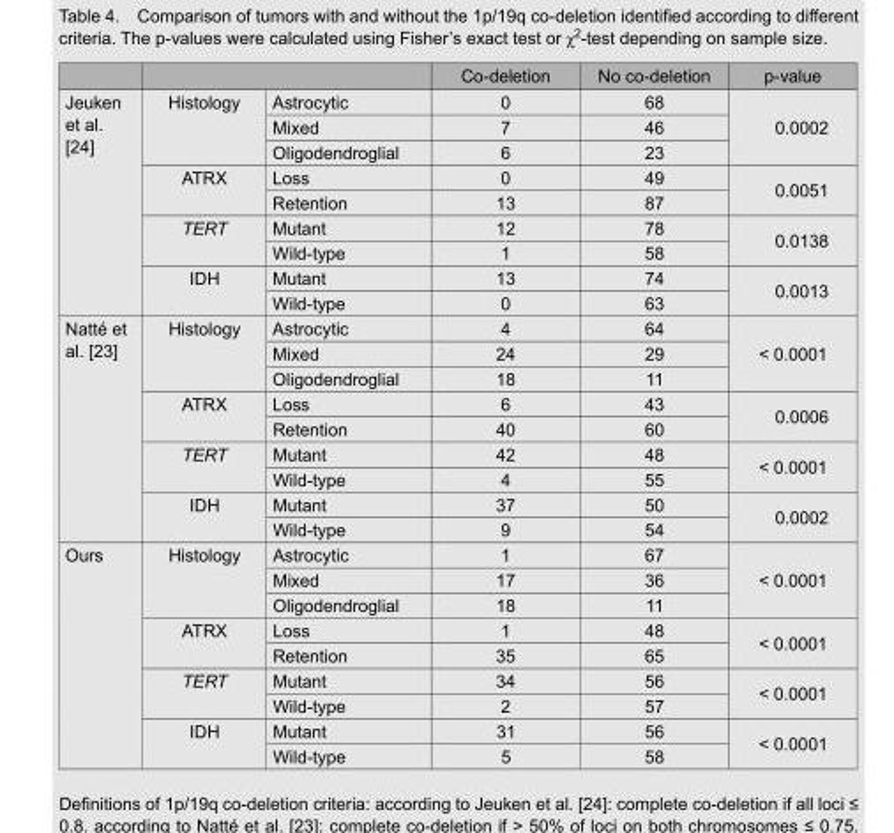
<table><thead><tr><td></td><td></td><td></td><td>Co-deletion</td><td>No co-deletion</td><td>p-value</td></tr></thead><tbody><tr><td rowspan="9">Jeuken et al. [24]</td><td rowspan="3">Histology</td><td>Astrocytic</td><td>0</td><td>68</td><td rowspan="3">0.0002</td></tr><tr><td>Mixed</td><td>7</td><td>46</td></tr><tr><td>Oligodendroglial</td><td>6</td><td>23</td></tr><tr><td rowspan="2">ATRX</td><td>Loss</td><td>0</td><td>49</td><td rowspan="2">0.0051</td></tr><tr><td>Retention</td><td>13</td><td>87</td></tr><tr><td rowspan="2">TERT</td><td>Mutant</td><td>12</td><td>78</td><td rowspan="2">0.0138</td></tr><tr><td>Wild-type</td><td>1</td><td>58</td></tr><tr><td rowspan="2">IDH</td><td>Mutant</td><td>13</td><td>74</td><td rowspan="2">0.0013</td></tr><tr><td>Wild-type</td><td>0</td><td>63</td></tr><tr><td rowspan="9">Natté et al. [23]</td><td rowspan="3">Histology</td><td>Astrocytic</td><td>4</td><td>64</td><td rowspan="3">&lt; 0.0001</td></tr><tr><td>Mixed</td><td>24</td><td>29</td></tr><tr><td>Oligodendroglial</td><td>18</td><td>11</td></tr><tr><td rowspan="2">ATRX</td><td>Loss</td><td>6</td><td>43</td><td rowspan="2">0.0006</td></tr><tr><td>Retention</td><td>40</td><td>60</td></tr><tr><td rowspan="2">TERT</td><td>Mutant</td><td>42</td><td>48</td><td rowspan="2">&lt; 0.0001</td></tr><tr><td>Wild-type</td><td>4</td><td>55</td></tr><tr><td rowspan="2">IDH</td><td>Mutant</td><td>37</td><td>50</td><td rowspan="2">0.0002</td></tr><tr><td>Wild-type</td><td>9</td><td>54</td></tr><tr><td rowspan="9">Ours</td><td rowspan="3">Histology</td><td>Astrocytic</td><td>1</td><td>67</td><td rowspan="3">&lt; 0.0001</td></tr><tr><td>Mixed</td><td>17</td><td>36</td></tr><tr><td>Oligodendroglial</td><td>18</td><td>11</td></tr><tr><td rowspan="2">ATRX</td><td>Loss</td><td>1</td><td>48</td><td rowspan="2">&lt; 0.0001</td></tr><tr><td>Retention</td><td>35</td><td>65</td></tr><tr><td rowspan="2">TERT</td><td>Mutant</td><td>34</td><td>56</td><td rowspan="2">&lt; 0.0001</td></tr><tr><td>Wild-type</td><td>2</td><td>57</td></tr><tr><td rowspan="2">IDH</td><td>Mutant</td><td>31</td><td>56</td><td rowspan="2">&lt; 0.0001</td></tr><tr><td>Wild-type</td><td>5</td><td>58</td></tr></tbody></table>